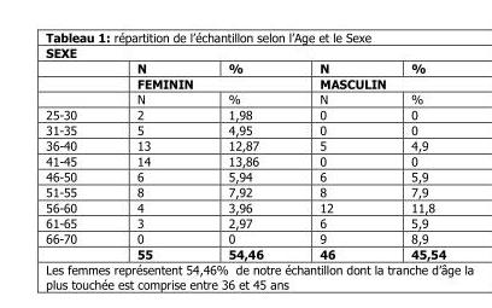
<table><thead><tr><td colspan="5">SEXE</td></tr><tr><td rowspan="2"></td><td>N</td><td>%</td><td>N</td><td>%</td></tr><tr><td colspan="2">FEMININ</td><td colspan="2">MASCULIN</td></tr></thead><tbody><tr><td></td><td>N</td><td>%</td><td>N</td><td>%</td></tr><tr><td>25-30</td><td>2</td><td>1,98</td><td>0</td><td>0</td></tr><tr><td>31-35</td><td>5</td><td>4,95</td><td>0</td><td>0</td></tr><tr><td>36-40</td><td>13</td><td>12,87</td><td>5</td><td>4,9</td></tr><tr><td>41-45</td><td>14</td><td>13,86</td><td>0</td><td>0</td></tr><tr><td>46-50</td><td>6</td><td>5,94</td><td>6</td><td>5,9</td></tr><tr><td>51-55</td><td>8</td><td>7,92</td><td>8</td><td>7,9</td></tr><tr><td>56-60</td><td>4</td><td>3,96</td><td>12</td><td>11,8</td></tr><tr><td>61-65</td><td>3</td><td>2,97</td><td>6</td><td>5,9</td></tr><tr><td rowspan="2">66-70</td><td>0</td><td>0</td><td>9</td><td>8,9</td></tr><tr><td>55</td><td>54,46</td><td>46</td><td>45,54</td></tr></tbody></table>